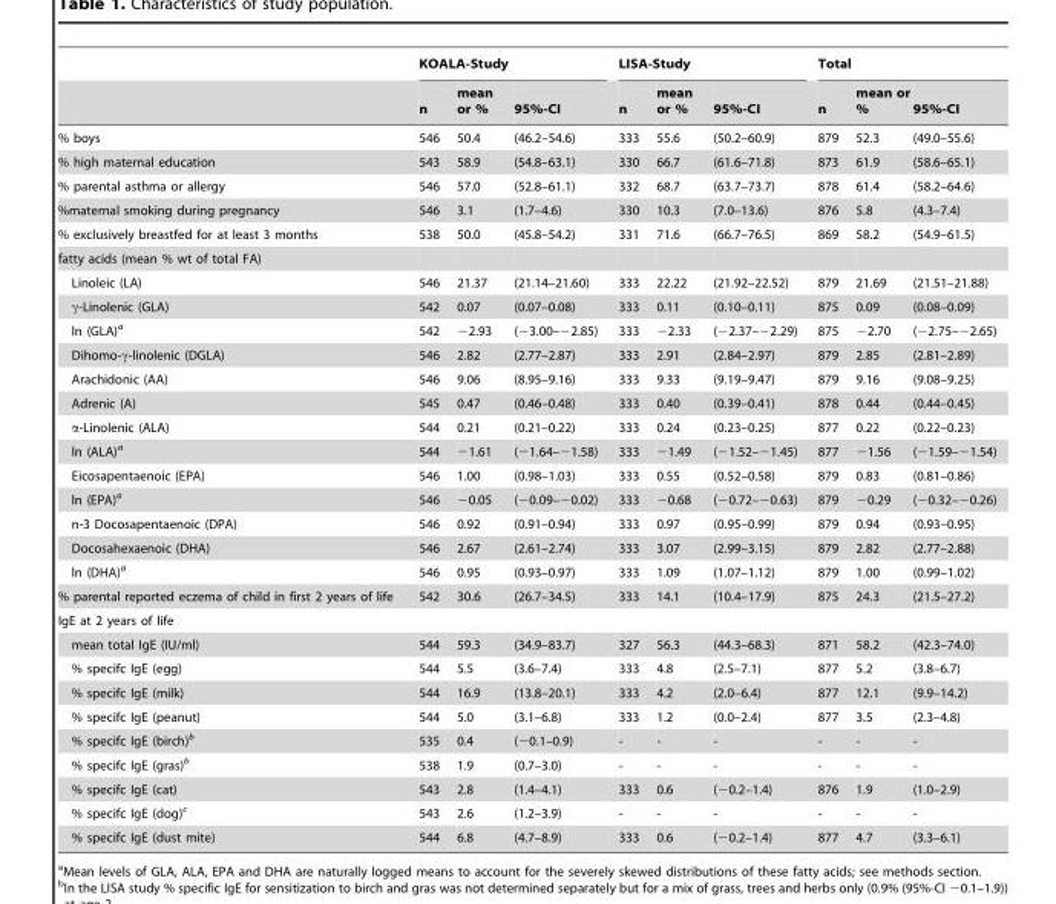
<table><thead><tr><td rowspan="2"></td><td colspan="3">KOALA-Study</td><td colspan="3">LISA-Study</td><td colspan="3">Total</td></tr><tr><td>n</td><td>mean or %</td><td>95%-CI</td><td>n</td><td>mean or %</td><td>95%-CI</td><td>n</td><td>mean or %</td><td>95%-CI</td></tr></thead><tbody><tr><td>% boys</td><td>546</td><td>50.4</td><td>(46.2–54.6)</td><td>333</td><td>55.6</td><td>(50.2–60.9)</td><td>879</td><td>52.3</td><td>(49.0–55.6)</td></tr><tr><td>% high maternal education</td><td>543</td><td>58.9</td><td>(54.8–63.1)</td><td>330</td><td>66.7</td><td>(61.6–71.8)</td><td>873</td><td>61.9</td><td>(58.6–65.1)</td></tr><tr><td>% parental asthma or allergy</td><td>546</td><td>57.0</td><td>(52.8–61.1)</td><td>332</td><td>68.7</td><td>(63.7–73.7)</td><td>878</td><td>61.4</td><td>(58.2–64.6)</td></tr><tr><td>%maternal smoking during pregnancy</td><td>546</td><td>3.1</td><td>(1.7–4.6)</td><td>330</td><td>10.3</td><td>(7.0–13.6)</td><td>876</td><td>5.8</td><td>(4.3–7.4)</td></tr><tr><td>% exclusively breastfed for at least 3 months</td><td>538</td><td>50.0</td><td>(45.8–54.2)</td><td>331</td><td>71.6</td><td>(66.7–76.5)</td><td>869</td><td>58.2</td><td>(54.9–61.5)</td></tr><tr><td colspan="10">fatty acids (mean % wt of total FA)</td></tr><tr><td>Linoleic (LA)</td><td>546</td><td>21.37</td><td>(21.14–21.60)</td><td>333</td><td>22.22</td><td>(21.92–22.52)</td><td>879</td><td>21.69</td><td>(21.51–21.88)</td></tr><tr><td>γ-Linolenic (GLA)</td><td>542</td><td>0.07</td><td>(0.07–0.08)</td><td>333</td><td>0.11</td><td>(0.10–0.11)</td><td>875</td><td>0.09</td><td>(0.08–0.09)</td></tr><tr><td>ln (GLA)<sup>a</sup></td><td>542</td><td>−2.93</td><td>(−3.00–−2.85)</td><td>333</td><td>−2.33</td><td>(−2.37–−2.29)</td><td>875</td><td>−2.70</td><td>(−2.75–−2.65)</td></tr><tr><td>Dihomo-γ-linolenic (DGLA)</td><td>546</td><td>2.82</td><td>(2.77–2.87)</td><td>333</td><td>2.91</td><td>(2.84–2.97)</td><td>879</td><td>2.85</td><td>(2.81–2.89)</td></tr><tr><td>Arachidonic (AA)</td><td>546</td><td>9.06</td><td>(8.95–9.16)</td><td>333</td><td>9.33</td><td>(9.19–9.47)</td><td>879</td><td>9.16</td><td>(9.08–9.25)</td></tr><tr><td>Adrenic (A)</td><td>545</td><td>0.47</td><td>(0.46–0.48)</td><td>333</td><td>0.40</td><td>(0.39–0.41)</td><td>878</td><td>0.44</td><td>(0.44–0.45)</td></tr><tr><td>α-Linolenic (ALA)</td><td>544</td><td>0.21</td><td>(0.21–0.22)</td><td>333</td><td>0.24</td><td>(0.23–0.25)</td><td>877</td><td>0.22</td><td>(0.22–0.23)</td></tr><tr><td>ln (ALA)<sup>a</sup></td><td>544</td><td>−1.61</td><td>(−1.64–−1.58)</td><td>333</td><td>−1.49</td><td>(−1.52–−1.45)</td><td>877</td><td>−1.56</td><td>(−1.59–−1.54)</td></tr><tr><td>Eicosapentaenoic (EPA)</td><td>546</td><td>1.00</td><td>(0.98–1.03)</td><td>333</td><td>0.55</td><td>(0.52–0.58)</td><td>879</td><td>0.83</td><td>(0.81–0.86)</td></tr><tr><td>ln (EPA)<sup>a</sup></td><td>546</td><td>−0.05</td><td>(−0.09–−0.02)</td><td>333</td><td>−0.68</td><td>(−0.72–−0.63)</td><td>879</td><td>−0.29</td><td>(−0.32–−0.26)</td></tr><tr><td>n-3 Docosapentaenoic (DPA)</td><td>546</td><td>0.92</td><td>(0.91–0.94)</td><td>333</td><td>0.97</td><td>(0.95–0.99)</td><td>879</td><td>0.94</td><td>(0.93–0.95)</td></tr><tr><td>Docosahexaenoic (DHA)</td><td>546</td><td>2.67</td><td>(2.61–2.74)</td><td>333</td><td>3.07</td><td>(2.99–3.15)</td><td>879</td><td>2.82</td><td>(2.77–2.88)</td></tr><tr><td>ln (DHA)<sup>a</sup></td><td>546</td><td>0.95</td><td>(0.93–0.97)</td><td>333</td><td>1.09</td><td>(1.07–1.12)</td><td>879</td><td>1.00</td><td>(0.99–1.02)</td></tr><tr><td>% parental reported eczema of child in first 2 years of life</td><td>542</td><td>30.6</td><td>(26.7–34.5)</td><td>333</td><td>14.1</td><td>(10.4–17.9)</td><td>875</td><td>24.3</td><td>(21.5–27.2)</td></tr><tr><td colspan="10">IgE at 2 years of life</td></tr><tr><td>mean total IgE (IU/ml)</td><td>544</td><td>59.3</td><td>(34.9–83.7)</td><td>327</td><td>56.3</td><td>(44.3–68.3)</td><td>871</td><td>58.2</td><td>(42.3–74.0)</td></tr><tr><td>% specifc IgE (egg)</td><td>544</td><td>5.5</td><td>(3.6–7.4)</td><td>333</td><td>4.8</td><td>(2.5–7.1)</td><td>877</td><td>5.2</td><td>(3.8–6.7)</td></tr><tr><td>% specifc IgE (milk)</td><td>544</td><td>16.9</td><td>(13.8–20.1)</td><td>333</td><td>4.2</td><td>(2.0–6.4)</td><td>877</td><td>12.1</td><td>(9.9–14.2)</td></tr><tr><td>% specifc IgE (peanut)</td><td>544</td><td>5.0</td><td>(3.1–6.8)</td><td>333</td><td>1.2</td><td>(0.0–2.4)</td><td>877</td><td>3.5</td><td>(2.3–4.8)</td></tr><tr><td>% specifc IgE (birch)<sup>b</sup></td><td>535</td><td>0.4</td><td>(−0.1–0.9)</td><td>-</td><td>-</td><td>-</td><td>-</td><td>-</td><td>-</td></tr><tr><td>% specifc IgE (gras)<sup>b</sup></td><td>538</td><td>1.9</td><td>(0.7–3.0)</td><td>-</td><td>-</td><td>-</td><td>-</td><td>-</td><td>-</td></tr><tr><td>% specifc IgE (cat)</td><td>543</td><td>2.8</td><td>(1.4–4.1)</td><td>333</td><td>0.6</td><td>(−0.2–1.4)</td><td>876</td><td>1.9</td><td>(1.0–2.9)</td></tr><tr><td>% specifc IgE (dog)<sup>c</sup></td><td>543</td><td>2.6</td><td>(1.2–3.9)</td><td>-</td><td>-</td><td>-</td><td>-</td><td>-</td><td>-</td></tr><tr><td>% specifc IgE (dust mite)</td><td>544</td><td>6.8</td><td>(4.7–8.9)</td><td>333</td><td>0.6</td><td>(−0.2–1.4)</td><td>877</td><td>4.7</td><td>(3.3–6.1)</td></tr></tbody></table>